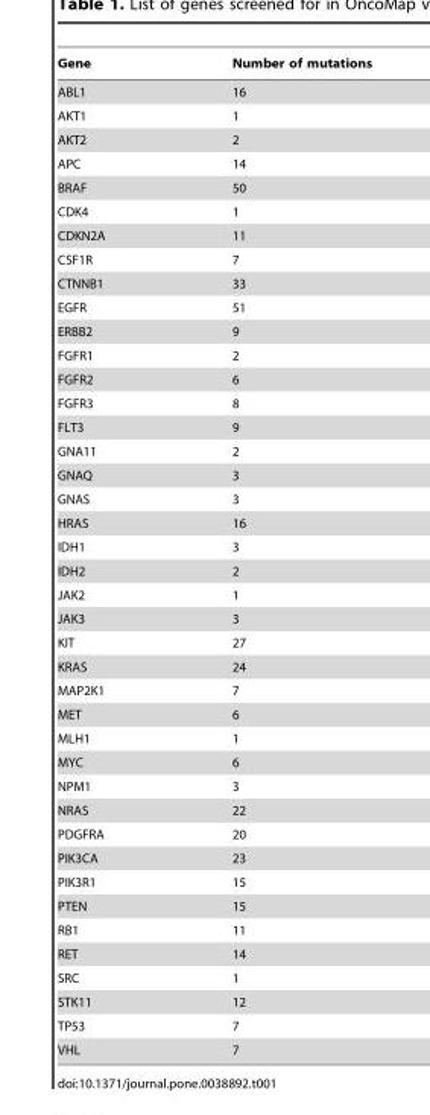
<table><thead><tr><td>Gene</td><td>Number of mutations</td></tr></thead><tbody><tr><td>ABL1</td><td>16</td></tr><tr><td>AKT1</td><td>1</td></tr><tr><td>AKT2</td><td>2</td></tr><tr><td>APC</td><td>14</td></tr><tr><td>BRAF</td><td>50</td></tr><tr><td>CDK4</td><td>1</td></tr><tr><td>CDKN2A</td><td>11</td></tr><tr><td>CSF1R</td><td>7</td></tr><tr><td>CTNNB1</td><td>33</td></tr><tr><td>EGFR</td><td>51</td></tr><tr><td>ERBB2</td><td>9</td></tr><tr><td>FGFR1</td><td>2</td></tr><tr><td>FGFR2</td><td>6</td></tr><tr><td>FGFR3</td><td>8</td></tr><tr><td>FLT3</td><td>9</td></tr><tr><td>GNA11</td><td>2</td></tr><tr><td>GNAQ</td><td>3</td></tr><tr><td>GNAS</td><td>3</td></tr><tr><td>HRAS</td><td>16</td></tr><tr><td>IDH1</td><td>3</td></tr><tr><td>IDH2</td><td>2</td></tr><tr><td>JAK2</td><td>1</td></tr><tr><td>JAK3</td><td>3</td></tr><tr><td>KIT</td><td>27</td></tr><tr><td>KRAS</td><td>24</td></tr><tr><td>MAP2K1</td><td>7</td></tr><tr><td>MET</td><td>6</td></tr><tr><td>MLH1</td><td>1</td></tr><tr><td>MYC</td><td>6</td></tr><tr><td>NPM1</td><td>3</td></tr><tr><td>NRAS</td><td>22</td></tr><tr><td>PDGFRA</td><td>20</td></tr><tr><td>PIK3CA</td><td>23</td></tr><tr><td>PIK3R1</td><td>15</td></tr><tr><td>PTEN</td><td>15</td></tr><tr><td>RB1</td><td>11</td></tr><tr><td>RET</td><td>14</td></tr><tr><td>SRC</td><td>1</td></tr><tr><td>STK11</td><td>12</td></tr><tr><td>TP53</td><td>7</td></tr><tr><td>VHL</td><td>7</td></tr></tbody></table>